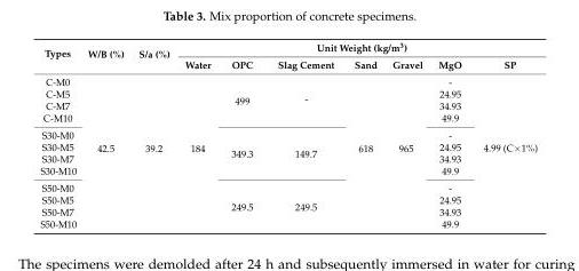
<table><thead><tr><td rowspan="2">Types</td><td rowspan="2">W/B (%)</td><td rowspan="2">S/a (%)</td><td colspan="7">Unit Weight (kg/m<sup>3</sup>)</td></tr><tr><td>Water</td><td>OPC</td><td>Slag Cement</td><td>Sand</td><td>Gravel</td><td>MgO</td><td>SP</td></tr></thead><tbody><tr><td>C-M0</td><td rowspan="12">42.5</td><td rowspan="12">39.2</td><td rowspan="12">184</td><td rowspan="4">499</td><td rowspan="4">-</td><td rowspan="12">618</td><td rowspan="12">965</td><td>-</td><td rowspan="12">4.99 (C×1%)</td></tr><tr><td>C-M5</td><td>24.95</td></tr><tr><td>C-M7</td><td>34.93</td></tr><tr><td>C-M10</td><td>49.9</td></tr><tr><td>S30-M0</td><td rowspan="4">349.3</td><td rowspan="4">149.7</td><td>-</td></tr><tr><td>S30-M5</td><td>24.95</td></tr><tr><td>S30-M7</td><td>34.93</td></tr><tr><td>S30-M10</td><td>49.9</td></tr><tr><td>S50-M0</td><td rowspan="4">249.5</td><td rowspan="4">249.5</td><td>-</td></tr><tr><td>S50-M5</td><td>24.95</td></tr><tr><td>S50-M7</td><td>34.93</td></tr><tr><td>S50-M10</td><td>49.9</td></tr></tbody></table>